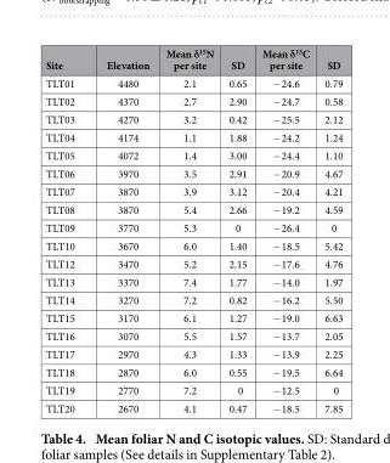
<table><thead><tr><td>Site</td><td>Elevation</td><td>Mean δ<sup>15</sup>N per site</td><td>SD</td><td>Mean δ<sup>13</sup>C per site</td><td>SD</td></tr></thead><tbody><tr><td>TLT01</td><td>4480</td><td>2.1</td><td>0.65</td><td>− 24.6</td><td>0.79</td></tr><tr><td>TLT02</td><td>4370</td><td>2.7</td><td>2.90</td><td>− 24.7</td><td>0.58</td></tr><tr><td>TLT03</td><td>4270</td><td>3.2</td><td>0.42</td><td>− 25.5</td><td>2.12</td></tr><tr><td>TLT04</td><td>4174</td><td>1.1</td><td>1.88</td><td>− 24.2</td><td>1.24</td></tr><tr><td>TLT05</td><td>4072</td><td>1.4</td><td>3.00</td><td>− 24.4</td><td>1.10</td></tr><tr><td>TLT06</td><td>3970</td><td>3.5</td><td>2.91</td><td>− 20.9</td><td>4.67</td></tr><tr><td>TLT07</td><td>3870</td><td>3.9</td><td>3.12</td><td>− 20.4</td><td>4.21</td></tr><tr><td>TLT08</td><td>3870</td><td>5.4</td><td>2.66</td><td>− 19.2</td><td>4.59</td></tr><tr><td>TLT09</td><td>3770</td><td>5.3</td><td>0</td><td>− 26.4</td><td>0</td></tr><tr><td>TLT10</td><td>3670</td><td>6.0</td><td>1.40</td><td>− 18.5</td><td>5.42</td></tr><tr><td>TLT12</td><td>3470</td><td>5.2</td><td>2.15</td><td>− 17.6</td><td>4.76</td></tr><tr><td>TLT13</td><td>3370</td><td>7.4</td><td>1.77</td><td>− 14.0</td><td>1.97</td></tr><tr><td>TLT14</td><td>3270</td><td>7.2</td><td>0.82</td><td>− 16.2</td><td>5.50</td></tr><tr><td>TLT15</td><td>3170</td><td>6.1</td><td>1.27</td><td>− 19.0</td><td>6.63</td></tr><tr><td>TLT16</td><td>3070</td><td>5.5</td><td>1.57</td><td>− 13.7</td><td>2.05</td></tr><tr><td>TLT17</td><td>2970</td><td>4.3</td><td>1.33</td><td>− 13.9</td><td>2.25</td></tr><tr><td>TLT18</td><td>2870</td><td>6.0</td><td>0.55</td><td>− 19.5</td><td>6.64</td></tr><tr><td>TLT19</td><td>2770</td><td>7.2</td><td>0</td><td>− 12.5</td><td>0</td></tr><tr><td>TLT20</td><td>2670</td><td>4.1</td><td>0.47</td><td>− 18.5</td><td>7.85</td></tr></tbody></table>